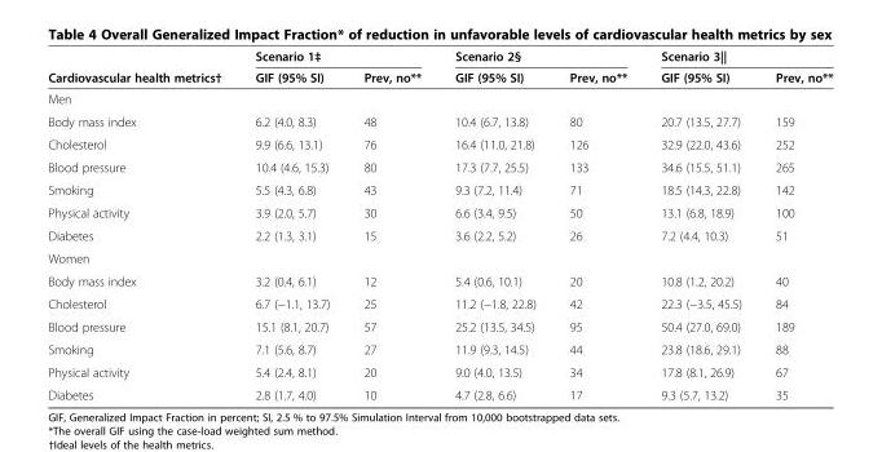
<table><thead><tr><td rowspan="2">Cardiovascular health metrics†</td><td colspan="2">Scenario 1‡</td><td colspan="2">Scenario 2§</td><td colspan="2">Scenario 3||</td></tr><tr><td>GIF (95% SI)</td><td>Prev, no**</td><td>GIF (95% SI)</td><td>Prev, no**</td><td>GIF (95% SI)</td><td>Prev, no**</td></tr></thead><tbody><tr><td colspan="7">Men</td></tr><tr><td>Body mass index</td><td>6.2 (4.0, 8.3)</td><td>48</td><td>10.4 (6.7, 13.8)</td><td>80</td><td>20.7 (13.5, 27.7)</td><td>159</td></tr><tr><td>Cholesterol</td><td>9.9 (6.6, 13.1)</td><td>76</td><td>16.4 (11.0, 21.8)</td><td>126</td><td>32.9 (22.0, 43.6)</td><td>252</td></tr><tr><td>Blood pressure</td><td>10.4 (4.6, 15.3)</td><td>80</td><td>17.3 (7.7, 25.5)</td><td>133</td><td>34.6 (15.5, 51.1)</td><td>265</td></tr><tr><td>Smoking</td><td>5.5 (4.3, 6.8)</td><td>43</td><td>9.3 (7.2, 11.4)</td><td>71</td><td>18.5 (14.3, 22.8)</td><td>142</td></tr><tr><td>Physical activity</td><td>3.9 (2.0, 5.7)</td><td>30</td><td>6.6 (3.4, 9.5)</td><td>50</td><td>13.1 (6.8, 18.9)</td><td>100</td></tr><tr><td>Diabetes</td><td>2.2 (1.3, 3.1)</td><td>15</td><td>3.6 (2.2, 5.2)</td><td>26</td><td>7.2 (4.4, 10.3)</td><td>51</td></tr><tr><td colspan="7">Women</td></tr><tr><td>Body mass index</td><td>3.2 (0.4, 6.1)</td><td>12</td><td>5.4 (0.6, 10.1)</td><td>20</td><td>10.8 (1.2, 20.2)</td><td>40</td></tr><tr><td>Cholesterol</td><td>6.7 (−1.1, 13.7)</td><td>25</td><td>11.2 (−1.8, 22.8)</td><td>42</td><td>22.3 (−3.5, 45.5)</td><td>84</td></tr><tr><td>Blood pressure</td><td>15.1 (8.1, 20.7)</td><td>57</td><td>25.2 (13.5, 34.5)</td><td>95</td><td>50.4 (27.0, 69.0)</td><td>189</td></tr><tr><td>Smoking</td><td>7.1 (5.6, 8.7)</td><td>27</td><td>11.9 (9.3, 14.5)</td><td>44</td><td>23.8 (18.6, 29.1)</td><td>88</td></tr><tr><td>Physical activity</td><td>5.4 (2.4, 8.1)</td><td>20</td><td>9.0 (4.0, 13.5)</td><td>34</td><td>17.8 (8.1, 26.9)</td><td>67</td></tr><tr><td>Diabetes</td><td>2.8 (1.7, 4.0)</td><td>10</td><td>4.7 (2.8, 6.6)</td><td>17</td><td>9.3 (5.7, 13.2)</td><td>35</td></tr></tbody></table>